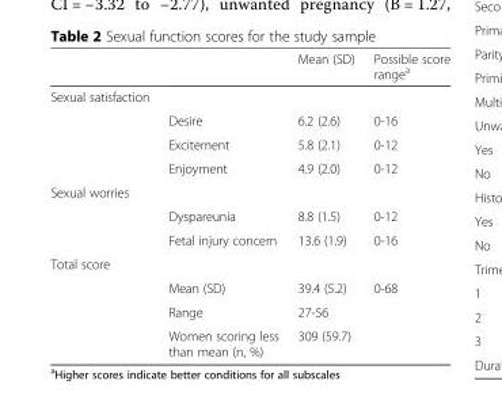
<table><thead><tr><td></td><td></td><td>Mean (SD)</td><td>Possible score range<sup>a</sup></td></tr></thead><tbody><tr><td colspan="4">Sexual satisfaction</td></tr><tr><td></td><td>Desire</td><td>6.2 (2.6)</td><td>0-16</td></tr><tr><td></td><td>Excitement</td><td>5.8 (2.1)</td><td>0-12</td></tr><tr><td></td><td>Enjoyment</td><td>4.9 (2.0)</td><td>0-12</td></tr><tr><td colspan="4">Sexual worries</td></tr><tr><td></td><td>Dyspareunia</td><td>8.8 (1.5)</td><td>0-12</td></tr><tr><td></td><td>Fetal injury concern</td><td>13.6 (1.9)</td><td>0-16</td></tr><tr><td colspan="4">Total score</td></tr><tr><td></td><td>Mean (SD)</td><td>39.4 (5.2)</td><td>0-68</td></tr><tr><td></td><td>Range</td><td>27-56</td><td></td></tr><tr><td></td><td>Women scoring less than mean (n, %)</td><td>309 (59.7)</td><td></td></tr></tbody></table>